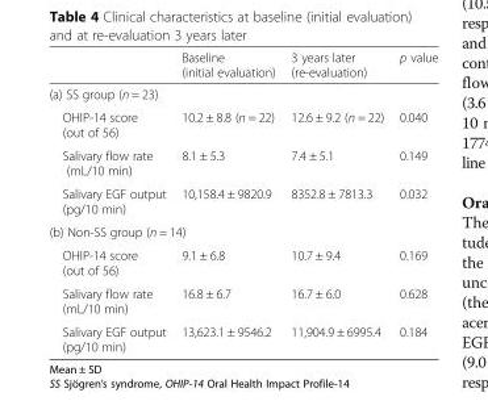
<table><thead><tr><td></td><td>Baseline (initial evaluation)</td><td>3 years later (re-evaluation)</td><td>p value</td></tr></thead><tbody><tr><td colspan="4">(a) SS group (n = 23)</td></tr><tr><td>OHIP-14 score (out of 56)</td><td>10.2 ± 8.8 (n = 22)</td><td>12.6 ± 9.2 (n = 22)</td><td>0.040</td></tr><tr><td>Salivary flow rate (mL/10 min)</td><td>8.1 ± 5.3</td><td>7.4 ± 5.1</td><td>0.149</td></tr><tr><td>Salivary EGF output (pg/10 min)</td><td>10,158.4 ± 9820.9</td><td>8352.8 ± 7813.3</td><td>0.032</td></tr><tr><td colspan="4">(b) Non-SS group (n = 14)</td></tr><tr><td>OHIP-14 score (out of 56)</td><td>9.1 ± 6.8</td><td>10.7 ± 9.4</td><td>0.169</td></tr><tr><td>Salivary flow rate (mL/10 min)</td><td>16.8 ± 6.7</td><td>16.7 ± 6.0</td><td>0.628</td></tr><tr><td>Salivary EGF output (pg/10 min)</td><td>13,623.1 ± 9546.2</td><td>11,904.9 ± 6995.4</td><td>0.184</td></tr></tbody></table>